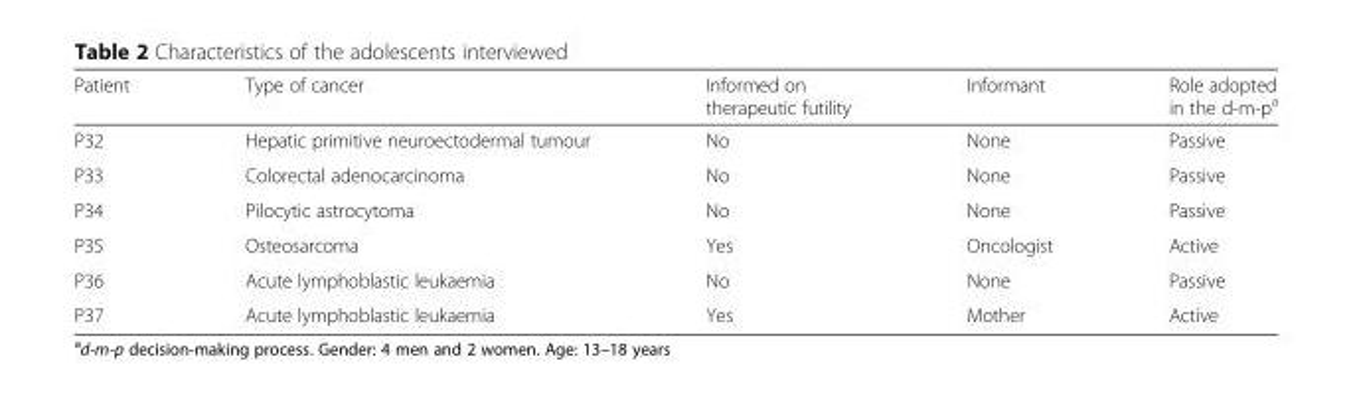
<table><thead><tr><td>Patient</td><td>Type of cancer</td><td>Informed on therapeutic futility</td><td>Informant</td><td>Role adopted in the d-m-p<sup>a</sup></td></tr></thead><tbody><tr><td>P32</td><td>Hepatic primitive neuroectodermal tumour</td><td>No</td><td>None</td><td>Passive</td></tr><tr><td>P33</td><td>Colorectal adenocarcinoma</td><td>No</td><td>None</td><td>Passive</td></tr><tr><td>P34</td><td>Pilocytic astrocytoma</td><td>No</td><td>None</td><td>Passive</td></tr><tr><td>P35</td><td>Osteosarcoma</td><td>Yes</td><td>Oncologist</td><td>Active</td></tr><tr><td>P36</td><td>Acute lymphoblastic leukaemia</td><td>No</td><td>None</td><td>Passive</td></tr><tr><td>P37</td><td>Acute lymphoblastic leukaemia</td><td>Yes</td><td>Mother</td><td>Active</td></tr></tbody></table>